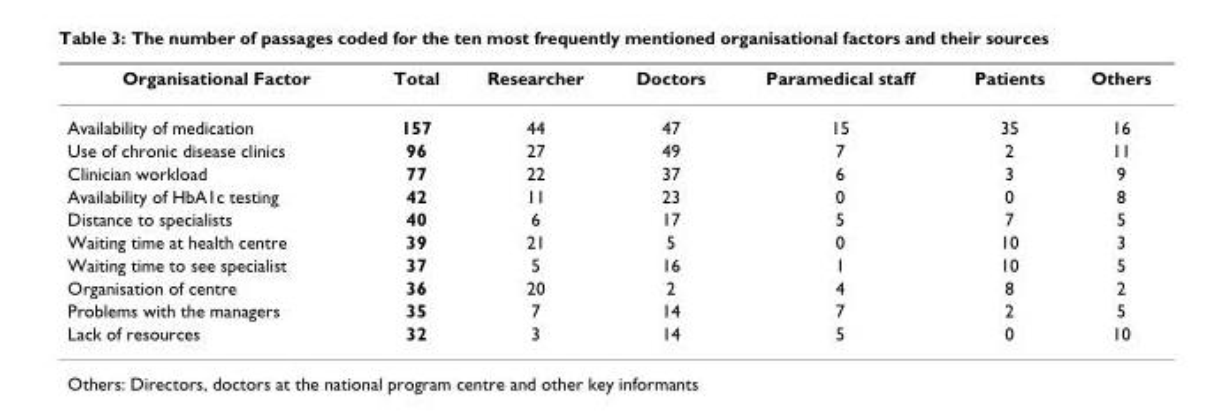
<table><thead><tr><td>Organisational Factor</td><td>Total</td><td>Researcher</td><td>Doctors</td><td>Paramedical staff</td><td>Patients</td><td>Others</td></tr></thead><tbody><tr><td>Availability of medication</td><td>157</td><td>44</td><td>47</td><td>15</td><td>35</td><td>16</td></tr><tr><td>Use of chronic disease clinics</td><td>96</td><td>27</td><td>49</td><td>7</td><td>2</td><td>11</td></tr><tr><td>Clinician workload</td><td>77</td><td>22</td><td>37</td><td>6</td><td>3</td><td>9</td></tr><tr><td>Availability of HbA1c testing</td><td>42</td><td>11</td><td>23</td><td>0</td><td>0</td><td>8</td></tr><tr><td>Distance to specialists</td><td>40</td><td>6</td><td>17</td><td>5</td><td>7</td><td>5</td></tr><tr><td>Waiting time at health centre</td><td>39</td><td>21</td><td>5</td><td>0</td><td>10</td><td>3</td></tr><tr><td>Waiting time to see specialist</td><td>37</td><td>5</td><td>16</td><td>1</td><td>10</td><td>5</td></tr><tr><td>Organisation of centre</td><td>36</td><td>20</td><td>2</td><td>4</td><td>8</td><td>2</td></tr><tr><td>Problems with the managers</td><td>35</td><td>7</td><td>14</td><td>7</td><td>2</td><td>5</td></tr><tr><td>Lack of resources</td><td>32</td><td>3</td><td>14</td><td>5</td><td>0</td><td>10</td></tr></tbody></table>